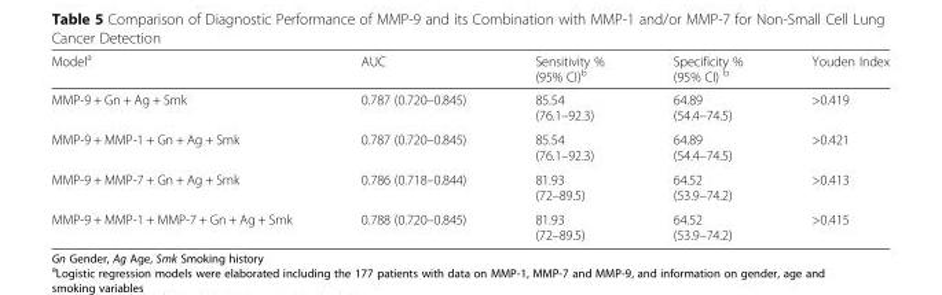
<table><thead><tr><td>Model<sup>a</sup></td><td>AUC</td><td>Sensitivity % (95% CI)<sup>b</sup></td><td>Specificity % (95% CI) <sup>b</sup></td><td>Youden Index</td></tr></thead><tbody><tr><td>MMP-9 + Gn + Ag + Smk</td><td>0.787 (0.720–0.845)</td><td>85.54 (76.1–92.3)</td><td>64.89 (54.4–74.5)</td><td>&gt;0.419</td></tr><tr><td>MMP-9 + MMP-1 + Gn + Ag + Smk</td><td>0.787 (0.720–0.845)</td><td>85.54 (76.1–92.3)</td><td>64.89 (54.4–74.5)</td><td>&gt;0.421</td></tr><tr><td>MMP-9 + MMP-7 + Gn + Ag + Smk</td><td>0.786 (0.718–0.844)</td><td>81.93 (72–89.5)</td><td>64.52 (53.9–74.2)</td><td>&gt;0.413</td></tr><tr><td>MMP-9 + MMP-1 + MMP-7 + Gn + Ag + Smk</td><td>0.788 (0.720–0.845)</td><td>81.93 (72–89.5)</td><td>64.52 (53.9–74.2)</td><td>&gt;0.415</td></tr></tbody></table>